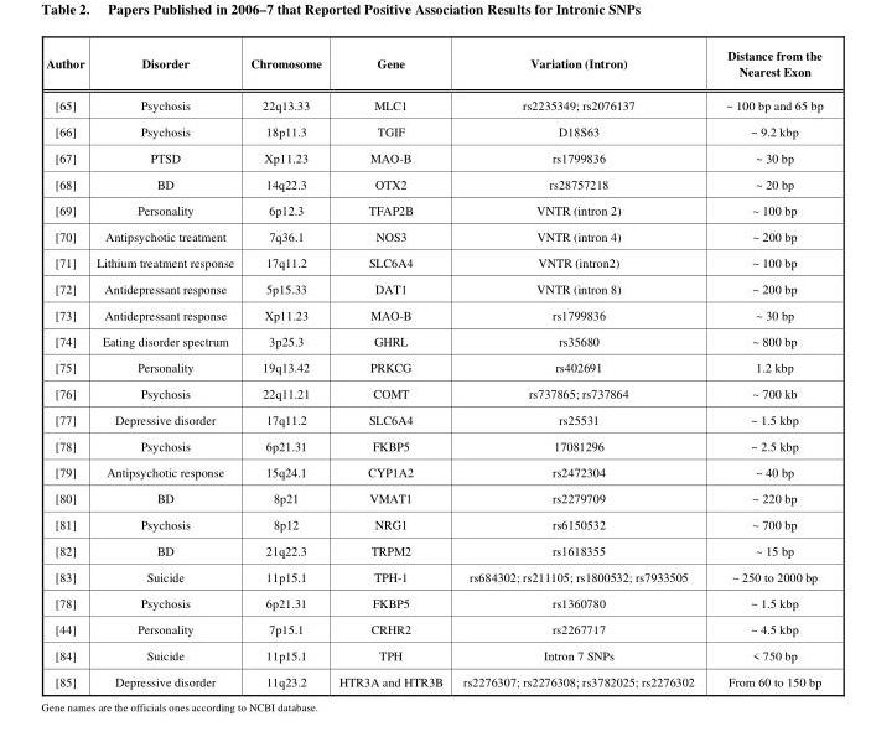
<table><thead><tr><td>Author</td><td>Disorder</td><td>Chromosome</td><td>Gene</td><td>Variation (Intron)</td><td>Distance from the Nearest Exon</td></tr></thead><tbody><tr><td>[65]</td><td>Psychosis</td><td>22q13.33</td><td>MLC1</td><td>rs2235349; rs2076137</td><td>~ 100 bp and 65 bp</td></tr><tr><td>[66]</td><td>Psychosis</td><td>18p11.3</td><td>TGIF</td><td>D18S63</td><td>~ 9.2 kbp</td></tr><tr><td>[67]</td><td>PTSD</td><td>Xp11.23</td><td>MAO-B</td><td>rs1799836</td><td>~ 30 bp</td></tr><tr><td>[68]</td><td>BD</td><td>14q22.3</td><td>OTX2</td><td>rs28757218</td><td>~ 20 bp</td></tr><tr><td>[69]</td><td>Personality</td><td>6p12.3</td><td>TFAP2B</td><td>VNTR (intron 2)</td><td>~ 100 bp</td></tr><tr><td>[70]</td><td>Antipsychotic treatment</td><td>7q36.1</td><td>NOS3</td><td>VNTR (intron 4)</td><td>~ 200 bp</td></tr><tr><td>[71]</td><td>Lithium treatment response</td><td>17q11.2</td><td>SLC6A4</td><td>VNTR (intron2)</td><td>~ 100 bp</td></tr><tr><td>[72]</td><td>Antidepressant response</td><td>5p15.33</td><td>DAT1</td><td>VNTR (intron 8)</td><td>~ 200 bp</td></tr><tr><td>[73]</td><td>Antidepressant response</td><td>Xp11.23</td><td>MAO-B</td><td>rs1799836</td><td>~ 30 bp</td></tr><tr><td>[74]</td><td>Eating disorder spectrum</td><td>3p25.3</td><td>GHRL</td><td>rs35680</td><td>~ 800 bp</td></tr><tr><td>[75]</td><td>Personality</td><td>19q13.42</td><td>PRKCG</td><td>rs402691</td><td>1.2 kbp</td></tr><tr><td>[76]</td><td>Psychosis</td><td>22q11.21</td><td>COMT</td><td>rs737865; rs737864</td><td>~ 700 kb</td></tr><tr><td>[77]</td><td>Depressive disorder</td><td>17q11.2</td><td>SLC6A4</td><td>rs25531</td><td>~ 1.5 kbp</td></tr><tr><td>[78]</td><td>Psychosis</td><td>6p21.31</td><td>FKBP5</td><td>17081296</td><td>~ 2.5 kbp</td></tr><tr><td>[79]</td><td>Antipsychotic response</td><td>15q24.1</td><td>CYP1A2</td><td>rs2472304</td><td>~ 40 bp</td></tr><tr><td>[80]</td><td>BD</td><td>8p21</td><td>VMAT1</td><td>rs2279709</td><td>~ 220 bp</td></tr><tr><td>[81]</td><td>Psychosis</td><td>8p12</td><td>NRG1</td><td>rs6150532</td><td>~ 700 bp</td></tr><tr><td>[82]</td><td>BD</td><td>21q22.3</td><td>TRPM2</td><td>rs1618355</td><td>~ 15 bp</td></tr><tr><td>[83]</td><td>Suicide</td><td>11p15.1</td><td>TPH-1</td><td>rs684302; rs211105; rs1800532; rs7933505</td><td>~ 250 to 2000 bp</td></tr><tr><td>[78]</td><td>Psychosis</td><td>6p21.31</td><td>FKBP5</td><td>rs1360780</td><td>~ 1.5 kbp</td></tr><tr><td>[44]</td><td>Personality</td><td>7p15.1</td><td>CRHR2</td><td>rs2267717</td><td>~ 4.5 kbp</td></tr><tr><td>[84]</td><td>Suicide</td><td>11p15.1</td><td>TPH</td><td>Intron 7 SNPs</td><td>&lt; 750 bp</td></tr><tr><td>[85]</td><td>Depressive disorder</td><td>11q23.2</td><td>HTR3A and HTR3B</td><td>rs2276307; rs2276308; rs3782025; rs2276302</td><td>From 60 to 150 bp</td></tr></tbody></table>